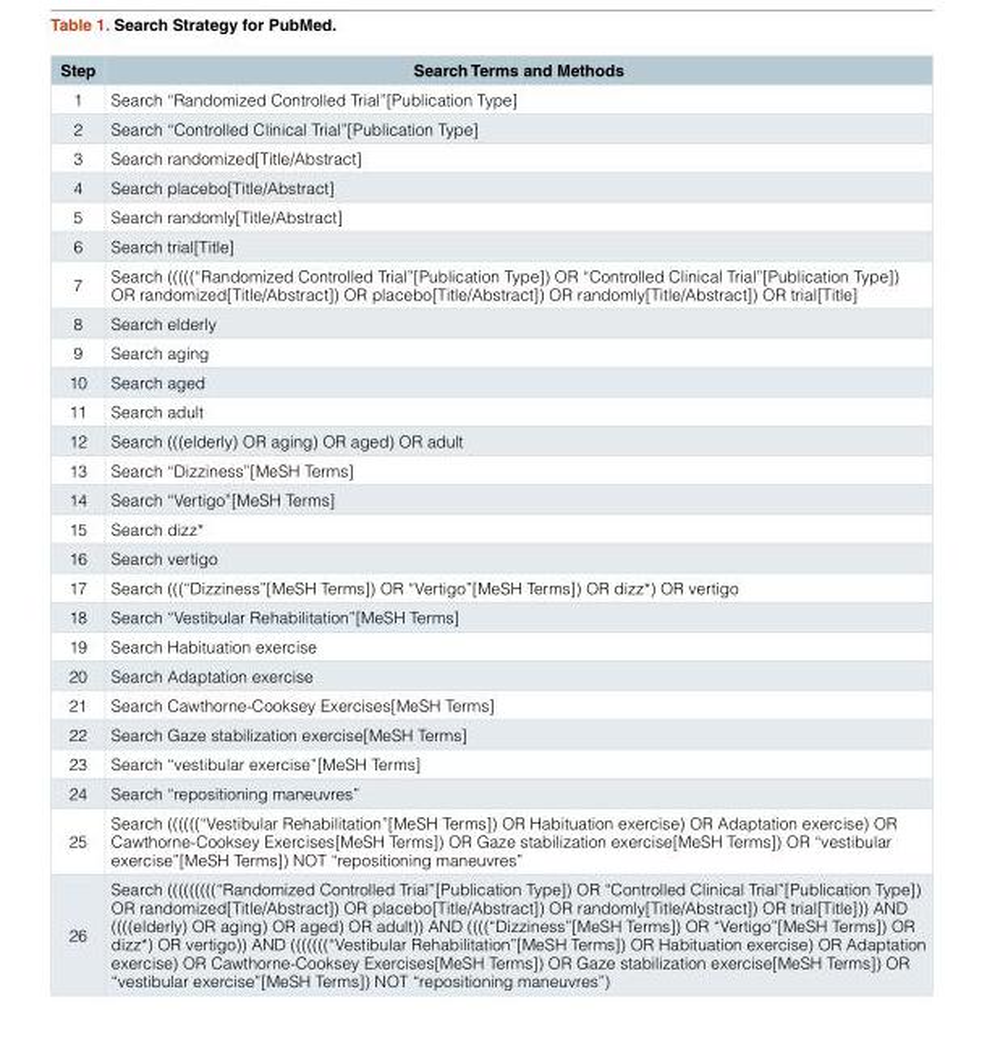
<table><thead><tr><td>Step</td><td>Search Terms and Methods</td></tr></thead><tbody><tr><td>1</td><td>Search “Randomized Controlled Trial”[Publication Type]</td></tr><tr><td>2</td><td>Search “Controlled Clinical Trial”[Publication Type]</td></tr><tr><td>3</td><td>Search randomized[Title/Abstract]</td></tr><tr><td>4</td><td>Search placebo[Title/Abstract]</td></tr><tr><td>5</td><td>Search randomly[Title/Abstract]</td></tr><tr><td>6</td><td>Search trial[Title]</td></tr><tr><td>7</td><td>Search (((((“Randomized Controlled Trial”[Publication Type]) OR “Controlled Clinical Trial”[Publication Type]) OR randomized[Title/Abstract]) OR placebo[Title/Abstract]) OR randomly[Title/Abstract]) OR trial[Title]</td></tr><tr><td>8</td><td>Search elderly</td></tr><tr><td>9</td><td>Search aging</td></tr><tr><td>10</td><td>Search aged</td></tr><tr><td>11</td><td>Search adult</td></tr><tr><td>12</td><td>Search (((elderly) OR aging) OR aged) OR adult</td></tr><tr><td>13</td><td>Search “Dizziness”[MeSH Terms]</td></tr><tr><td>14</td><td>Search “Vertigo”[MeSH Terms]</td></tr><tr><td>15</td><td>Search dizz*</td></tr><tr><td>16</td><td>Search vertigo</td></tr><tr><td>17</td><td>Search (((“Dizziness”[MeSH Terms]) OR “Vertigo”[MeSH Terms]) OR dizz*) OR vertigo</td></tr><tr><td>18</td><td>Search “Vestibular Rehabilitation”[MeSH Terms]</td></tr><tr><td>19</td><td>Search Habituation exercise</td></tr><tr><td>20</td><td>Search Adaptation exercise</td></tr><tr><td>21</td><td>Search Cawthorne-Cooksey Exercises[MeSH Terms]</td></tr><tr><td>22</td><td>Search Gaze stabilization exercise[MeSH Terms]</td></tr><tr><td>23</td><td>Search “vestibular exercise”[MeSH Terms]</td></tr><tr><td>24</td><td>Search “repositioning maneuvres”</td></tr><tr><td>25</td><td>Search ((((((“Vestibular Rehabilitation”[MeSH Terms]) OR Habituation exercise) OR Adaptation exercise) OR Cawthorne-Cooksey Exercises[MeSH Terms]) OR Gaze stabilization exercise[MeSH Terms]) OR “vestibular exercise”[MeSH Terms]) NOT “repositioning maneuvres”</td></tr><tr><td>26</td><td>Search (((((((((“Randomized Controlled Trial”[Publication Type]) OR “Controlled Clinical Trial”[Publication Type]) OR randomized[Title/Abstract]) OR placebo[Title/Abstract]) OR randomly[Title/Abstract]) OR trial[Title])) AND ((((elderly) OR aging) OR aged) OR adult)) AND ((((“Dizziness”[MeSH Terms]) OR “Vertigo”[MeSH Terms]) OR dizz*) OR vertigo)) AND (((((((“Vestibular Rehabilitation”[MeSH Terms]) OR Habituation exercise) OR Adaptation exercise) OR Cawthorne-Cooksey Exercises[MeSH Terms]) OR Gaze stabilization exercise[MeSH Terms]) OR “vestibular exercise”[MeSH Terms]) NOT “repositioning maneuvres”)</td></tr></tbody></table>